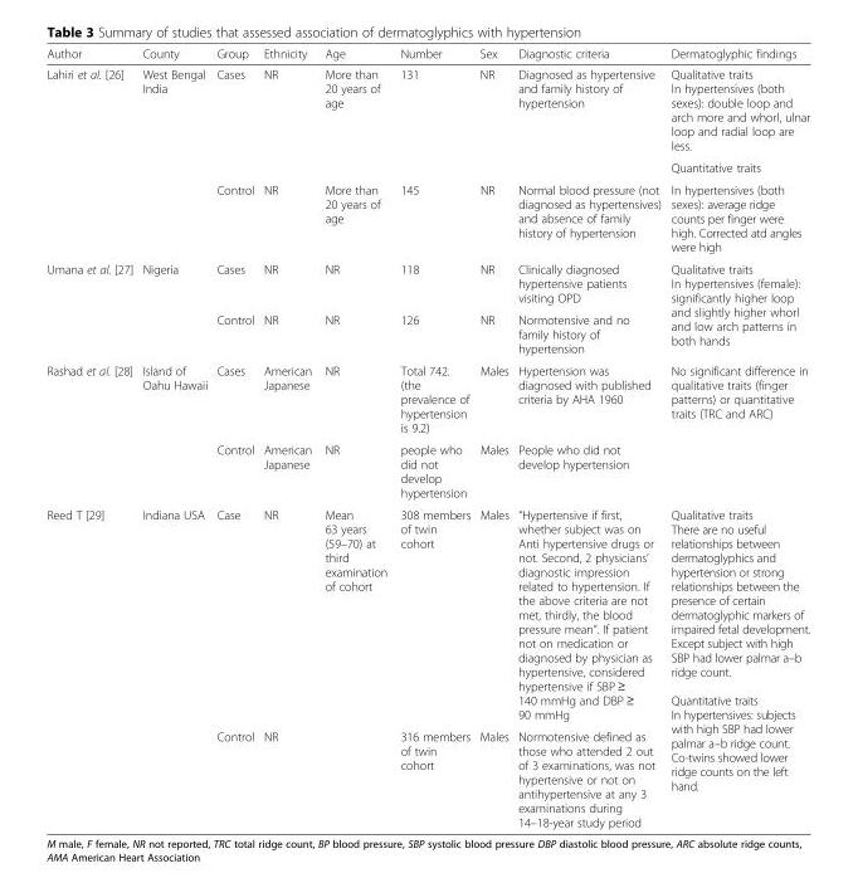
<table><thead><tr><td>Author</td><td>County</td><td>Group</td><td>Ethnicity</td><td>Age</td><td>Number</td><td>Sex</td><td>Diagnostic criteria</td><td>Dermatoglyphic findings</td></tr></thead><tbody><tr><td rowspan="3">Lahiri et al. [26]</td><td rowspan="3">West Bengal India</td><td rowspan="2">Cases</td><td rowspan="2">NR</td><td rowspan="2">More than 20 years of age</td><td rowspan="2">131</td><td rowspan="2">NR</td><td rowspan="2">Diagnosed as hypertensive and family history of hypertension</td><td>Qualitative traits In hypertensives (both sexes): double loop and arch more and whorl, ulnar loop and radial loop are less.</td></tr><tr><td>Quantitative traits</td></tr><tr><td>Control</td><td>NR</td><td>More than 20 years of age</td><td>145</td><td>NR</td><td>Normal blood pressure (not diagnosed as hypertensives) and absence of family history of hypertension</td><td>In hypertensives (both sexes): average ridge counts per finger were high. Corrected atd angles were high</td></tr><tr><td rowspan="2">Umana et al. [27]</td><td rowspan="2">Nigeria</td><td>Cases</td><td>NR</td><td>NR</td><td>118</td><td>NR</td><td>Clinically diagnosed hypertensive patients visiting OPD</td><td rowspan="2">Qualitative traits In hypertensives (female): significantly higher loop and slightly higher whorl and low arch patterns in both hands</td></tr><tr><td>Control</td><td>NR</td><td>NR</td><td>126</td><td>NR</td><td>Normotensive and no family history of hypertension</td></tr><tr><td rowspan="2">Rashad et al. [28]</td><td rowspan="2">Island of Oahu Hawaii</td><td>Cases</td><td>American Japanese</td><td>NR</td><td>Total 742. (the prevalence of hypertension is 9.2)</td><td>Males</td><td>Hypertension was diagnosed with published criteria by AHA 1960</td><td rowspan="2">No significant difference in qualitative traits (finger patterns) or quantitative traits (TRC and ARC)</td></tr><tr><td>Control</td><td>American Japanese</td><td>NR</td><td>people who did not develop hypertension</td><td>Males</td><td>People who did not develop hypertension</td></tr><tr><td rowspan="2">Reed T [29]</td><td rowspan="2">Indiana USA</td><td>Case</td><td>NR</td><td rowspan="2">Mean 63 years (59–70) at third examination of cohort</td><td>308 members of twin cohort</td><td>Males</td><td>“Hypertensive if first, whether subject was on Anti hypertensive drugs or not. Second, 2 physicians’ diagnostic impression related to hypertension. If the above criteria are not met, thirdly, the blood pressure mean”. If patient not on medication or diagnosed by physician as hypertensive, considered hypertensive if SBP ≥ 140 mmHg and DBP ≥ 90 mmHg</td><td rowspan="2">Qualitative traits There are no useful relationships between dermatoglyphics and hypertension or strong relationships between the presence of certain dermatoglyphic markers of impaired fetal development. Except subject with high SBP had lower palmar a–b ridge count. Quantitative traits In hypertensives: subjects with high SBP had lower palmar a–b ridge count. Co-twins showed lower ridge counts on the left hand.</td></tr><tr><td>Control</td><td>NR</td><td>316 members of twin cohort</td><td>Males</td><td>Normotensive defined as those who attended 2 out of 3 examinations, was not hypertensive or not on antihypertensive at any 3 examinations during 14–18-year study period</td></tr></tbody></table>